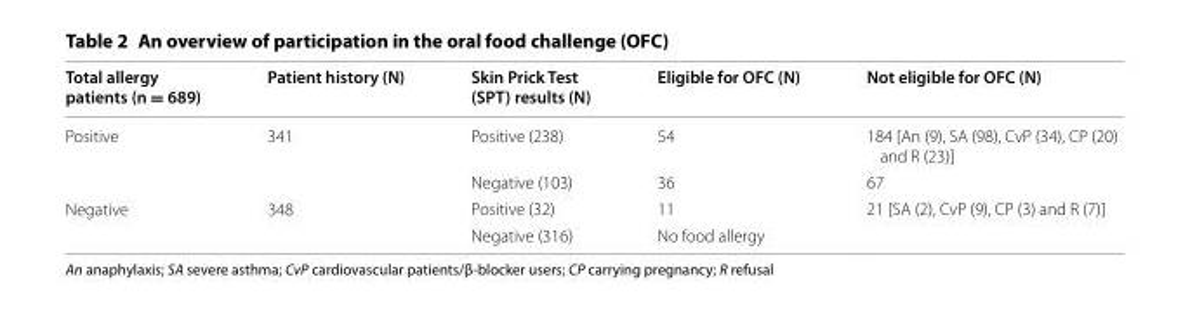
<table><thead><tr><td>Total allergy patients (n = 689)</td><td>Patient history (N)</td><td>Skin Prick Test (SPT) results (N)</td><td>Eligible for OFC (N)</td><td>Not eligible for OFC (N)</td></tr></thead><tbody><tr><td rowspan="2">Positive</td><td rowspan="2">341</td><td>Positive (238)</td><td>54</td><td>184 [An (9), SA (98), CvP (34), CP (20) and R (23)]</td></tr><tr><td>Negative (103)</td><td>36</td><td>67</td></tr><tr><td rowspan="2">Negative</td><td rowspan="2">348</td><td>Positive (32)</td><td>11</td><td>21 [SA (2), CvP (9), CP (3) and R (7)]</td></tr><tr><td>Negative (316)</td><td colspan="2">No food allergy</td></tr></tbody></table>